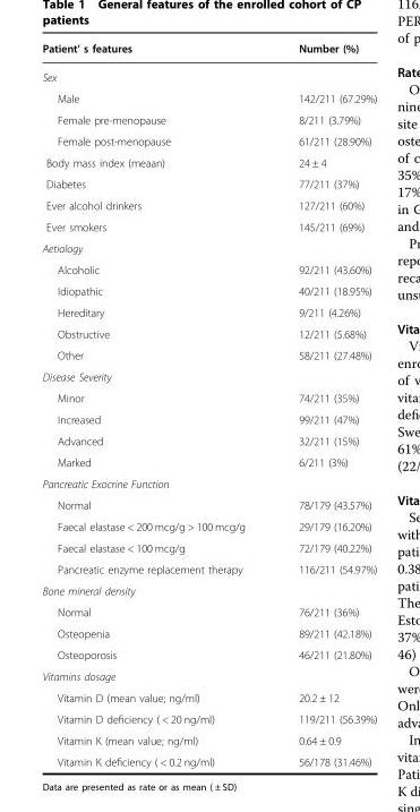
<table><thead><tr><td>Patient’ s features</td><td>Number (%)</td></tr></thead><tbody><tr><td colspan="2">Sex</td></tr><tr><td>Male</td><td>142/211 (67.29%)</td></tr><tr><td>Female pre-menopause</td><td>8/211 (3.79%)</td></tr><tr><td>Female post-menopause</td><td>61/211 (28.90%)</td></tr><tr><td>Body mass index (meaan)</td><td>24 ± 4</td></tr><tr><td>Diabetes</td><td>77/211 (37%)</td></tr><tr><td>Ever alcohol drinkers</td><td>127/211 (60%)</td></tr><tr><td>Ever smokers</td><td>145/211 (69%)</td></tr><tr><td colspan="2">Aetiology</td></tr><tr><td>Alcoholic</td><td>92/211 (43.60%)</td></tr><tr><td>Idiopathic</td><td>40/211 (18.95%)</td></tr><tr><td>Hereditary</td><td>9/211 (4.26%)</td></tr><tr><td>Obstructive</td><td>12/211 (5.68%)</td></tr><tr><td>Other</td><td>58/211 (27.48%)</td></tr><tr><td colspan="2">Disease Severity</td></tr><tr><td>Minor</td><td>74/211 (35%)</td></tr><tr><td>Increased</td><td>99/211 (47%)</td></tr><tr><td>Advanced</td><td>32/211 (15%)</td></tr><tr><td>Marked</td><td>6/211 (3%)</td></tr><tr><td colspan="2">Pancreatic Exocrine Function</td></tr><tr><td>Normal</td><td>78/179 (43.57%)</td></tr><tr><td>Faecal elastase &lt; 200 mcg/g &gt; 100 mcg/g</td><td>29/179 (16.20%)</td></tr><tr><td>Faecal elastase &lt; 100 mcg/g</td><td>72/179 (40.22%)</td></tr><tr><td>Pancreatic enzyme replacement therapy</td><td>116/211 (54.97%)</td></tr><tr><td colspan="2">Bone mineral density</td></tr><tr><td>Normal</td><td>76/211 (36%)</td></tr><tr><td>Osteopenia</td><td>89/211 (42.18%)</td></tr><tr><td>Osteoporosis</td><td>46/211 (21.80%)</td></tr><tr><td colspan="2">Vitamins dosage</td></tr><tr><td>Vitamin D (mean value; ng/ml)</td><td>20.2 ± 12</td></tr><tr><td>Vitamin D deficiency ( &lt; 20 ng/ml)</td><td>119/211 (56.39%)</td></tr><tr><td>Vitamin K (mean value; ng/ml)</td><td>0.64 ± 0.9</td></tr><tr><td>Vitamin K deficiency ( &lt; 0.2 ng/ml)</td><td>56/178 (31.46%)</td></tr></tbody></table>